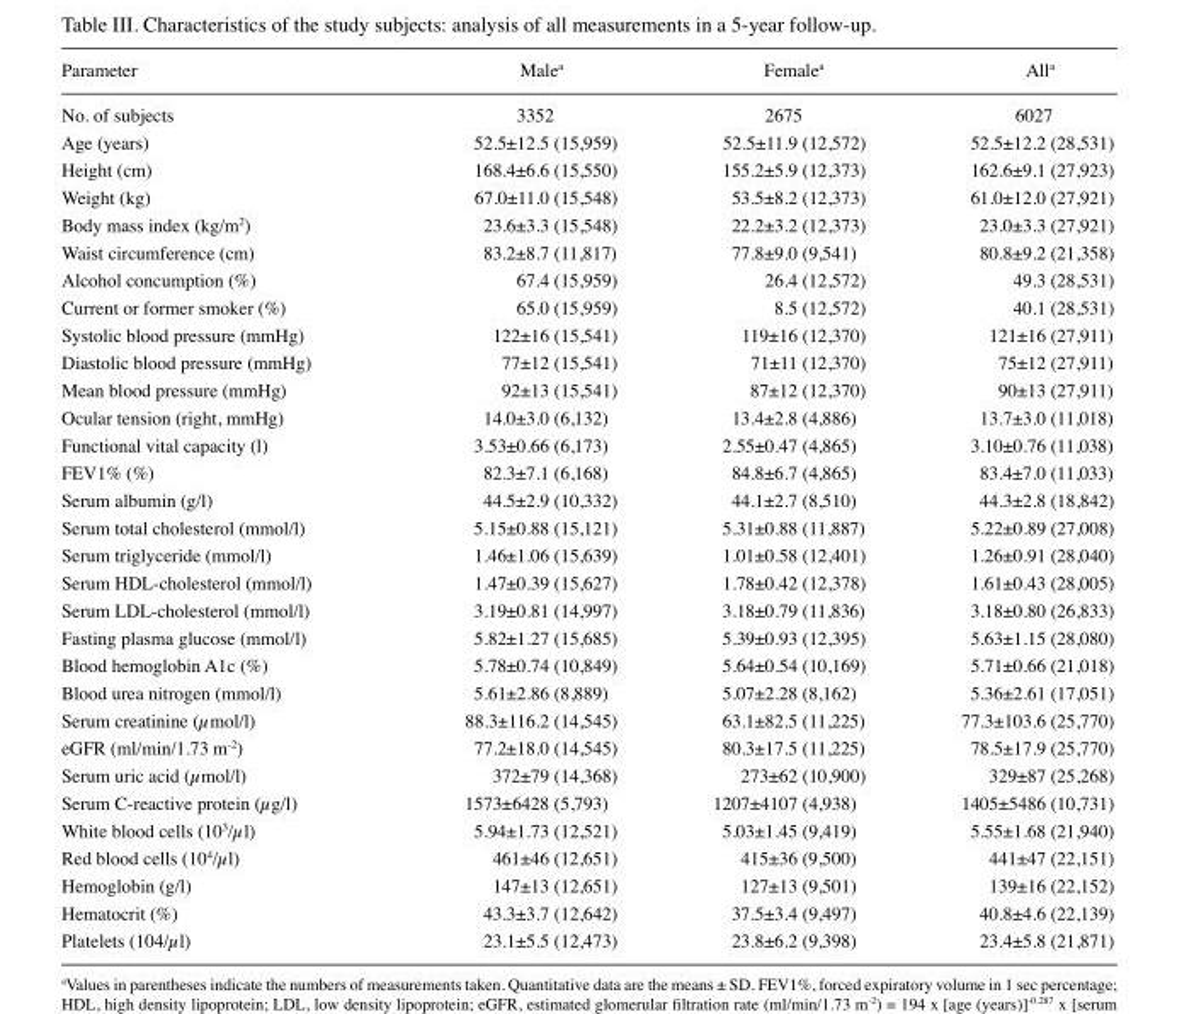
<table><thead><tr><td>Parameter</td><td>Male<sup>a</sup></td><td>Female<sup>a</sup></td><td>All<sup>a</sup></td></tr></thead><tbody><tr><td>No. of subjects</td><td>3352</td><td>2675</td><td>6027</td></tr><tr><td>Age (years)</td><td>52.5±12.5 (15,959)</td><td>52.5±11.9 (12,572)</td><td>52.5±12.2 (28,531)</td></tr><tr><td>Height (cm)</td><td>168.4±6.6 (15,550)</td><td>155.2±5.9 (12,373)</td><td>162.6±9.1 (27,923)</td></tr><tr><td>Weight (kg)</td><td>67.0±11.0 (15,548)</td><td>53.5±8.2 (12,373)</td><td>61.0±12.0 (27,921)</td></tr><tr><td>Body mass index (kg/m<sup>2</sup>)</td><td>23.6±3.3 (15,548)</td><td>22.2±3.2 (12,373)</td><td>23.0±3.3 (27,921)</td></tr><tr><td>Waist circumference (cm)</td><td>83.2±8.7 (11,817)</td><td>77.8±9.0 (9,541)</td><td>80.8±9.2 (21,358)</td></tr><tr><td>Alcohol concumption (%)</td><td>67.4 (15,959)</td><td>26.4 (12,572)</td><td>49.3 (28,531)</td></tr><tr><td>Current or former smoker (%)</td><td>65.0 (15,959)</td><td>8.5 (12,572)</td><td>40.1 (28,531)</td></tr><tr><td>Systolic blood pressure (mmHg)</td><td>122±16 (15,541)</td><td>119±16 (12,370)</td><td>121±16 (27,911)</td></tr><tr><td>Diastolic blood pressure (mmHg)</td><td>77±12 (15,541)</td><td>71±11 (12,370)</td><td>75±12 (27,911)</td></tr><tr><td>Mean blood pressure (mmHg)</td><td>92±13 (15,541)</td><td>87±12 (12,370)</td><td>90±13 (27,911)</td></tr><tr><td>Ocular tension (right, mmHg)</td><td>14.0±3.0 (6,132)</td><td>13.4±2.8 (4,886)</td><td>13.7±3.0 (11,018)</td></tr><tr><td>Functional vital capacity (l)</td><td>3.53±0.66 (6,173)</td><td>2.55±0.47 (4,865)</td><td>3.10±0.76 (11,038)</td></tr><tr><td>FEV1% (%)</td><td>82.3±7.1 (6,168)</td><td>84.8±6.7 (4,865)</td><td>83.4±7.0 (11,033)</td></tr><tr><td>Serum albumin (g/l)</td><td>44.5±2.9 (10,332)</td><td>44.1±2.7 (8,510)</td><td>44.3±2.8 (18,842)</td></tr><tr><td>Serum total cholesterol (mmol/l)</td><td>5.15±0.88 (15,121)</td><td>5.31±0.88 (11,887)</td><td>5.22±0.89 (27,008)</td></tr><tr><td>Serum triglyceride (mmol/l)</td><td>1.46±1.06 (15,639)</td><td>1.01±0.58 (12,401)</td><td>1.26±0.91 (28,040)</td></tr><tr><td>Serum HDL-cholesterol (mmol/l)</td><td>1.47±0.39 (15,627)</td><td>1.78±0.42 (12,378)</td><td>1.61±0.43 (28,005)</td></tr><tr><td>Serum LDL-cholesterol (mmol/l)</td><td>3.19±0.81 (14,997)</td><td>3.18±0.79 (11,836)</td><td>3.18±0.80 (26,833)</td></tr><tr><td>Fasting plasma glucose (mmol/l)</td><td>5.82±1.27 (15,685)</td><td>5.39±0.93 (12,395)</td><td>5.63±1.15 (28,080)</td></tr><tr><td>Blood hemoglobin A1c (%)</td><td>5.78±0.74 (10,849)</td><td>5.64±0.54 (10,169)</td><td>5.71±0.66 (21,018)</td></tr><tr><td>Blood urea nitrogen (mmol/l)</td><td>5.61±2.86 (8,889)</td><td>5.07±2.28 (8,162)</td><td>5.36±2.61 (17,051)</td></tr><tr><td>Serum creatinine (µmol/l)</td><td>88.3±116.2 (14,545)</td><td>63.1±82.5 (11,225)</td><td>77.3±103.6 (25,770)</td></tr><tr><td>eGFR (ml/min/1.73 m<sup>-2</sup>)</td><td>77.2±18.0 (14,545)</td><td>80.3±17.5 (11,225)</td><td>78.5±17.9 (25,770)</td></tr><tr><td>Serum uric acid (µmol/l)</td><td>372±79 (14,368)</td><td>273±62 (10,900)</td><td>329±87 (25,268)</td></tr><tr><td>Serum C-reactive protein (µg/l)</td><td>1573±6428 (5,793)</td><td>1207±4107 (4,938)</td><td>1405±5486 (10,731)</td></tr><tr><td>White blood cells (10<sup>3</sup>/µl)</td><td>5.94±1.73 (12,521)</td><td>5.03±1.45 (9,419)</td><td>5.55±1.68 (21,940)</td></tr><tr><td>Red blood cells (10<sup>4</sup>/µl)</td><td>461±46 (12,651)</td><td>415±36 (9,500)</td><td>441±47 (22,151)</td></tr><tr><td>Hemoglobin (g/l)</td><td>147±13 (12,651)</td><td>127±13 (9,501)</td><td>139±16 (22,152)</td></tr><tr><td>Hematocrit (%)</td><td>43.3±3.7 (12,642)</td><td>37.5±3.4 (9,497)</td><td>40.8±4.6 (22,139)</td></tr><tr><td>Platelets (104/µl)</td><td>23.1±5.5 (12,473)</td><td>23.8±6.2 (9,398)</td><td>23.4±5.8 (21,871)</td></tr></tbody></table>